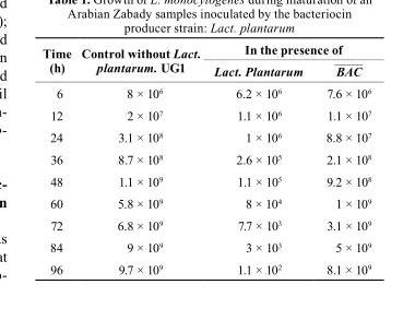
<table><thead><tr><td rowspan="2">time (h)</td><td rowspan="2">control without Lact. plantarum. UG1</td><td colspan="2">In the presence of</td></tr><tr><td>Lact. Plantarum</td><td>BAC</td></tr></thead><tbody><tr><td>6</td><td>8 × 10<sup>6</sup></td><td>6.2 × 10<sup>6</sup></td><td>7.6 × 10<sup>6</sup></td></tr><tr><td>12</td><td>2 × 10<sup>7</sup></td><td>1.1 × 10<sup>6</sup></td><td>1.1 × 10<sup>7</sup></td></tr><tr><td>24</td><td>3.1 × 10<sup>8</sup></td><td>1 × 10<sup>6</sup></td><td>8.8 × 10<sup>7</sup></td></tr><tr><td>36</td><td>8.7 × 10<sup>8</sup></td><td>2.6 × 10<sup>5</sup></td><td>2.1 × 10<sup>8</sup></td></tr><tr><td>48</td><td>1.1 × 10<sup>9</sup></td><td>1.1 × 10<sup>5</sup></td><td>9.2 × 10<sup>8</sup></td></tr><tr><td>60</td><td>5.8 × 10<sup>9</sup></td><td>8 × 10<sup>4</sup></td><td>1 × 10<sup>9</sup></td></tr><tr><td>72</td><td>6.8 × 10<sup>9</sup></td><td>7.7 × 10<sup>3</sup></td><td>3.1 × 10<sup>9</sup></td></tr><tr><td>84</td><td>9 × 10<sup>9</sup></td><td>3 × 10<sup>3</sup></td><td>5 × 10<sup>9</sup></td></tr><tr><td>96</td><td>9.7 × 10<sup>9</sup></td><td>1.1 × 10<sup>2</sup></td><td>8.1 × 10<sup>9</sup></td></tr></tbody></table>